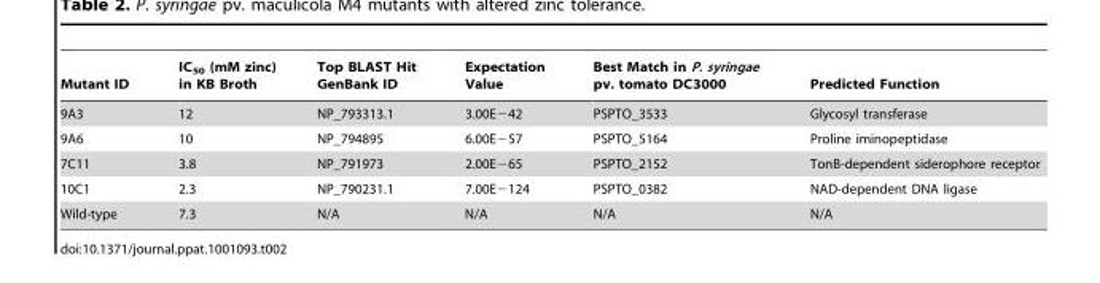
<table><thead><tr><td>Mutant ID</td><td>IC<sub>50</sub> (mM zinc) in KB Broth</td><td>Top BLAST Hit GenBank ID</td><td>Expectation Value</td><td>Best Match in P. syringae pv. tomato DC3000</td><td>Predicted Function</td></tr></thead><tbody><tr><td>9A3</td><td>12</td><td>NP_793313.1</td><td>3.00E−42</td><td>PSPTO_3533</td><td>Glycosyl transferase</td></tr><tr><td>9A6</td><td>10</td><td>NP_794895</td><td>6.00E−57</td><td>PSPTO_5164</td><td>Proline iminopeptidase</td></tr><tr><td>7C11</td><td>3.8</td><td>NP_791973</td><td>2.00E−65</td><td>PSPTO_2152</td><td>TonB-dependent siderophore receptor</td></tr><tr><td>10C1</td><td>2.3</td><td>NP_790231.1</td><td>7.00E−124</td><td>PSPTO_0382</td><td>NAD-dependent DNA ligase</td></tr><tr><td>Wild-type</td><td>7.3</td><td>N/A</td><td>N/A</td><td>N/A</td><td>N/A</td></tr></tbody></table>